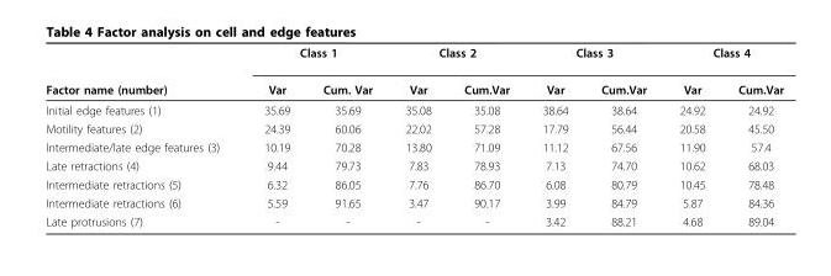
<table><thead><tr><td rowspan="2">Factor name (number)</td><td colspan="2">Class 1</td><td colspan="2">Class 2</td><td colspan="2">Class 3</td><td colspan="2">Class 4</td></tr><tr><td>Var</td><td>Cum. Var</td><td>Var</td><td>Cum.Var</td><td>Var</td><td>Cum.Var</td><td>Var</td><td>Cum.Var</td></tr></thead><tbody><tr><td>Initial edge features (1)</td><td>35.69</td><td>35.69</td><td>35.08</td><td>35.08</td><td>38.64</td><td>38.64</td><td>24.92</td><td>24.92</td></tr><tr><td>Motility features (2)</td><td>24.39</td><td>60.06</td><td>22.02</td><td>57.28</td><td>17.79</td><td>56.44</td><td>20.58</td><td>45.50</td></tr><tr><td>Intermediate/late edge features (3)</td><td>10.19</td><td>70.28</td><td>13.80</td><td>71.09</td><td>11.12</td><td>67.56</td><td>11.90</td><td>57.4</td></tr><tr><td>Late retractions (4)</td><td>9.44</td><td>79.73</td><td>7.83</td><td>78.93</td><td>7.13</td><td>74.70</td><td>10.62</td><td>68.03</td></tr><tr><td>Intermediate retractions (5)</td><td>6.32</td><td>86.05</td><td>7.76</td><td>86.70</td><td>6.08</td><td>80.79</td><td>10.45</td><td>78.48</td></tr><tr><td>Intermediate retractions (6)</td><td>5.59</td><td>91.65</td><td>3.47</td><td>90.17</td><td>3.99</td><td>84.79</td><td>5.87</td><td>84.36</td></tr><tr><td>Late protrusions (7)</td><td>-</td><td>-</td><td>-</td><td>-</td><td>3.42</td><td>88.21</td><td>4.68</td><td>89.04</td></tr></tbody></table>